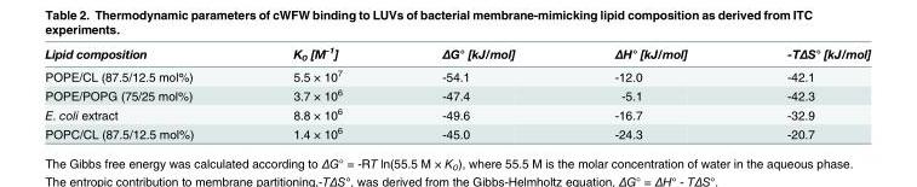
<table><thead><tr><td>Lipid composition</td><td>K<sub>0</sub> [M<sup>-1</sup>]</td><td>ΔG° [kJ/mol]</td><td>ΔH° [kJ/mol]</td><td>-TΔS° [kJ/mol]</td></tr></thead><tbody><tr><td>POPE/CL (87.5/12.5 mol%)</td><td>5.5 × 10<sup>7</sup></td><td>-54.1</td><td>-12.0</td><td>-42.1</td></tr><tr><td>POPE/POPG (75/25 mol%)</td><td>3.7 × 10<sup>6</sup></td><td>-47.4</td><td>-5.1</td><td>-42.3</td></tr><tr><td>E. coli extract</td><td>8.8 × 10<sup>6</sup></td><td>-49.6</td><td>-16.7</td><td>-32.9</td></tr><tr><td>POPC/CL (87.5/12.5 mol%)</td><td>1.4 × 10<sup>6</sup></td><td>-45.0</td><td>-24.3</td><td>-20.7</td></tr></tbody></table>